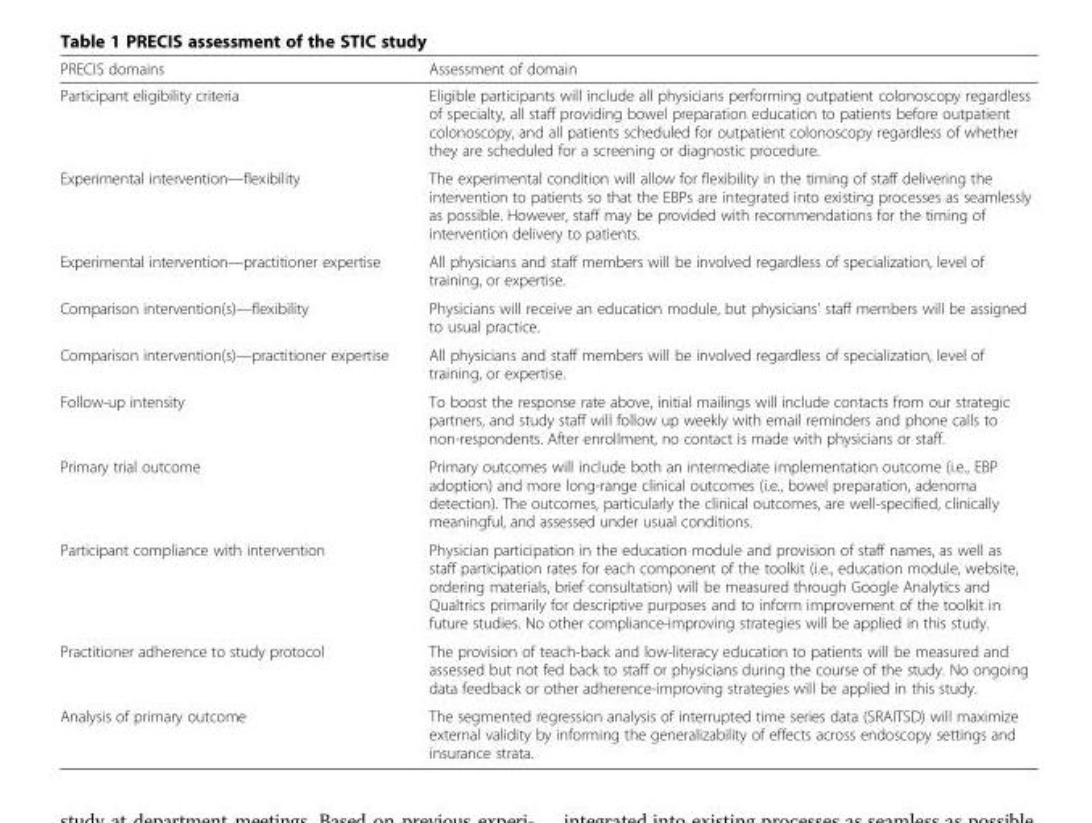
<table><thead><tr><td>PRECIS domains</td><td>Assessment of domain</td></tr></thead><tbody><tr><td>Participant eligibility criteria</td><td>Eligible participants will include all physicians performing outpatient colonoscopy regardless of specialty, all staff providing bowel preparation education to patients before outpatient colonoscopy, and all patients scheduled for outpatient colonoscopy regardless of whether they are scheduled for a screening or diagnostic procedure.</td></tr><tr><td>Experimental intervention—flexibility</td><td>The experimental condition will allow for flexibility in the timing of staff delivering the intervention to patients so that the EBPs are integrated into existing processes as seamlessly as possible. However, staff may be provided with recommendations for the timing of intervention delivery to patients.</td></tr><tr><td>Experimental intervention—practitioner expertise</td><td>All physicians and staff members will be involved regardless of specialization, level of training, or expertise.</td></tr><tr><td>Comparison intervention(s)—flexibility</td><td>Physicians will receive an education module, but physicians’ staff members will be assigned to usual practice.</td></tr><tr><td>Comparison intervention(s)—practitioner expertise</td><td>All physicians and staff members will be involved regardless of specialization, level of training, or expertise.</td></tr><tr><td>Follow-up intensity</td><td>To boost the response rate above, initial mailings will include contacts from our strategic partners, and study staff will follow up weekly with email reminders and phone calls to non-respondents. After enrollment, no contact is made with physicians or staff.</td></tr><tr><td>Primary trial outcome</td><td>Primary outcomes will include both an intermediate implementation outcome (i.e., EBP adoption) and more long-range clinical outcomes (i.e., bowel preparation, adenoma detection). The outcomes, particularly the clinical outcomes, are well-specified, clinically meaningful, and assessed under usual conditions.</td></tr><tr><td>Participant compliance with intervention</td><td>Physician participation in the education module and provision of staff names, as well as staff participation rates for each component of the toolkit (i.e., education module, website, ordering materials, brief consultation) will be measured through Google Analytics and Qualtrics primarily for descriptive purposes and to inform improvement of the toolkit in future studies. No other compliance-improving strategies will be applied in this study.</td></tr><tr><td>Practitioner adherence to study protocol</td><td>The provision of teach-back and low-literacy education to patients will be measured and assessed but not fed back to staff or physicians during the course of the study. No ongoing data feedback or other adherence-improving strategies will be applied in this study.</td></tr><tr><td>Analysis of primary outcome</td><td>The segmented regression analysis of interrupted time series data (SRAITSD) will maximize external validity by informing the generalizability of effects across endoscopy settings and insurance strata.</td></tr></tbody></table>